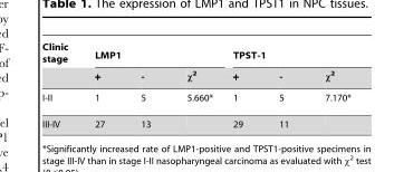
<table><thead><tr><td rowspan="2">Clinic stage</td><td colspan="3">LMP1</td><td colspan="3">TPST-1</td></tr><tr><td>+</td><td>-</td><td>χ<sup>2</sup></td><td>+</td><td>-</td><td>χ<sup>2</sup></td></tr></thead><tbody><tr><td>I-II</td><td>1</td><td>5</td><td>5.660*</td><td>1</td><td>5</td><td>7.170*</td></tr><tr><td>III-IV</td><td>27</td><td>13</td><td></td><td>29</td><td>11</td><td></td></tr></tbody></table>